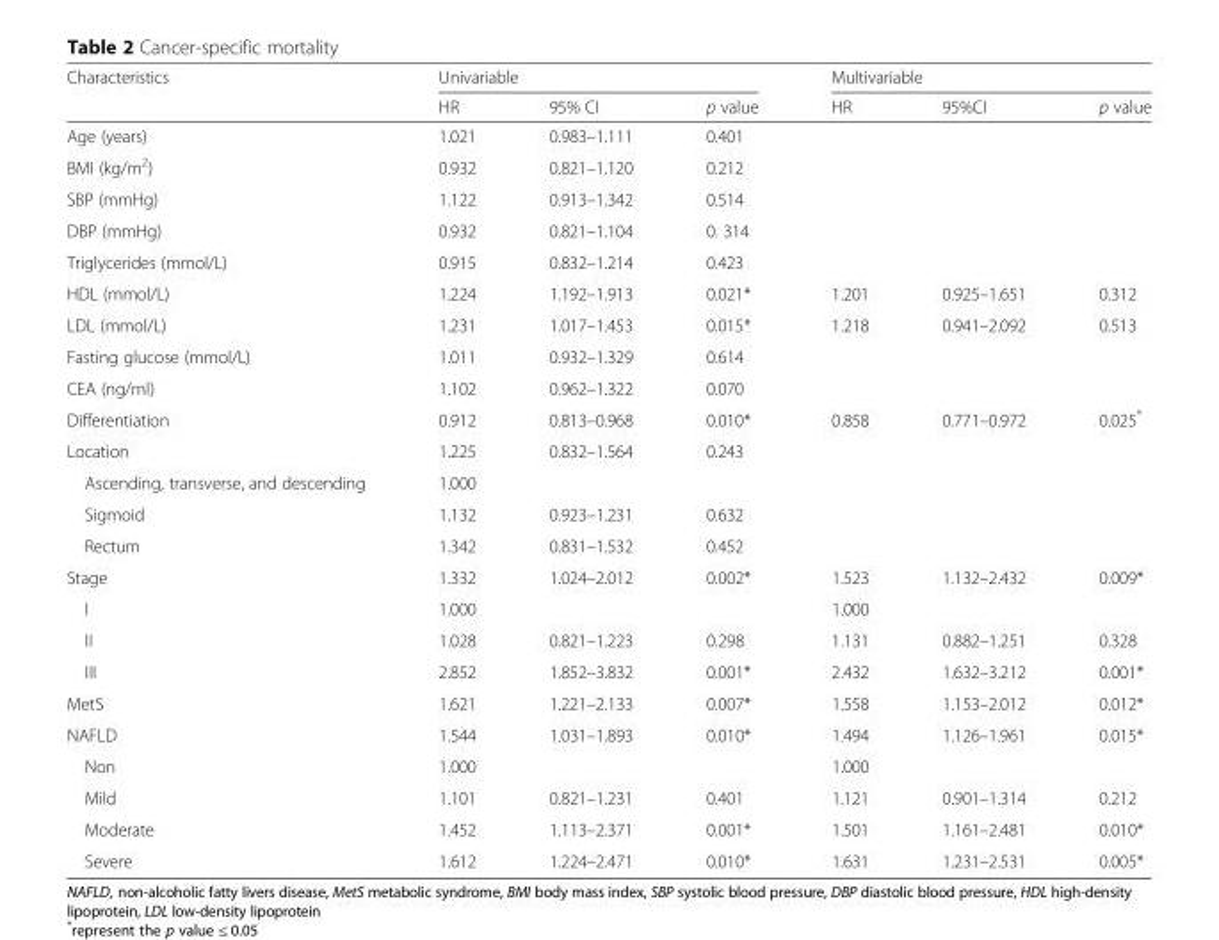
<table><thead><tr><td rowspan="2">Characteristics</td><td colspan="3">Univariable</td><td colspan="3">Multivariable</td></tr><tr><td>HR</td><td>95% CI</td><td>p value</td><td>HR</td><td>95%CI</td><td>p value</td></tr></thead><tbody><tr><td>Age (years)</td><td>1.021</td><td>0.983–1.111</td><td>0.401</td><td rowspan="5" colspan="3"></td></tr><tr><td>BMI (kg/m<sup>2</sup>)</td><td>0.932</td><td>0.821–1.120</td><td>0.212</td></tr><tr><td>SBP (mmHg)</td><td>1.122</td><td>0.913–1.342</td><td>0.514</td></tr><tr><td>DBP (mmHg)</td><td>0.932</td><td>0.821–1.104</td><td>0. 314</td></tr><tr><td>Triglycerides (mmol/L)</td><td>0.915</td><td>0.832–1.214</td><td>0.423</td></tr><tr><td>HDL (mmol/L)</td><td>1.224</td><td>1.192–1.913</td><td>0.021*</td><td>1.201</td><td>0.925–1.651</td><td>0.312</td></tr><tr><td>LDL (mmol/L)</td><td>1.231</td><td>1.017–1.453</td><td>0.015*</td><td>1.218</td><td>0.941–2.092</td><td>0.513</td></tr><tr><td>Fasting glucose (mmol/L)</td><td>1.011</td><td>0.932–1.329</td><td>0.614</td><td rowspan="2" colspan="3"></td></tr><tr><td>CEA (ng/ml)</td><td>1.102</td><td>0.962–1.322</td><td>0.070</td></tr><tr><td>Differentiation</td><td>0.912</td><td>0.813–0.968</td><td>0.010*</td><td>0.858</td><td>0.771–0.972</td><td>0.025*</td></tr><tr><td>Location</td><td>1.225</td><td>0.832–1.564</td><td>0.243</td><td rowspan="4" colspan="3"></td></tr><tr><td>Ascending, transverse, and descending</td><td colspan="3">1.000</td></tr><tr><td>Sigmoid</td><td>1.132</td><td>0.923–1.231</td><td>0.632</td></tr><tr><td>Rectum</td><td>1.342</td><td>0.831–1.532</td><td>0.452</td></tr><tr><td>Stage</td><td>1.332</td><td>1.024–2.012</td><td>0.002*</td><td>1.523</td><td>1.132–2.432</td><td>0.009*</td></tr><tr><td>I</td><td colspan="3">1.000</td><td colspan="3">1.000</td></tr><tr><td>II</td><td>1.028</td><td>0.821–1.223</td><td>0.298</td><td>1.131</td><td>0.882–1.251</td><td>0.328</td></tr><tr><td>III</td><td>2.852</td><td>1.852–3.832</td><td>0.001*</td><td>2.432</td><td>1.632–3.212</td><td>0.001*</td></tr><tr><td>MetS</td><td>1.621</td><td>1.221–2.133</td><td>0.007*</td><td>1.558</td><td>1.153–2.012</td><td>0.012*</td></tr><tr><td>NAFLD</td><td>1.544</td><td>1.031–1.893</td><td>0.010*</td><td>1.494</td><td>1.126–1.961</td><td>0.015*</td></tr><tr><td>Non</td><td colspan="3">1.000</td><td colspan="3">1.000</td></tr><tr><td>Mild</td><td>1.101</td><td>0.821–1.231</td><td>0.401</td><td>1.121</td><td>0.901–1.314</td><td>0.212</td></tr><tr><td>Moderate</td><td>1.452</td><td>1.113–2.371</td><td>0.001*</td><td>1.501</td><td>1.161–2.481</td><td>0.010*</td></tr><tr><td>Severe</td><td>1.612</td><td>1.224–2.471</td><td>0.010*</td><td>1.631</td><td>1.231–2.531</td><td>0.005*</td></tr></tbody></table>